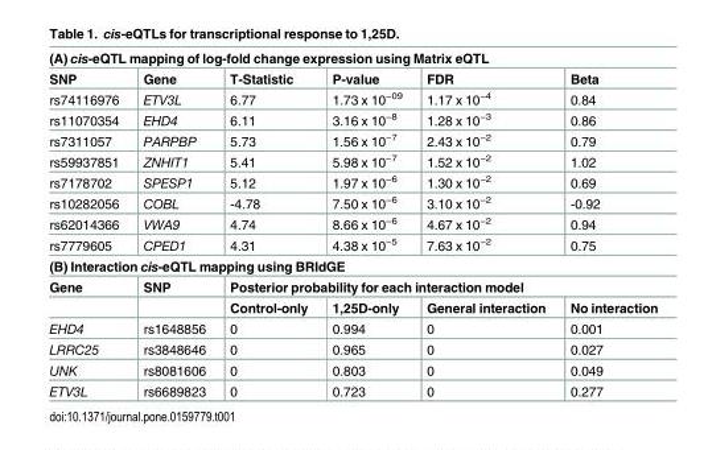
<table><tbody><tr><td colspan="6">(A) cis-eQTL mapping of log-fold change expression using Matrix eQTL</td></tr><tr><td>SNP</td><td>Gene</td><td>T-Statistic</td><td>P-value</td><td>FDR</td><td>Beta</td></tr><tr><td>rs74116976</td><td>ETV3L</td><td>6.77</td><td>1.73 x 10<sup>−09</sup></td><td>1.17 x 10<sup>−4</sup></td><td>0.84</td></tr><tr><td>rs11070354</td><td>EHD4</td><td>6.11</td><td>3.16 x 10<sup>−8</sup></td><td>1.28 x 10<sup>−3</sup></td><td>0.86</td></tr><tr><td>rs7311057</td><td>PARPBP</td><td>5.73</td><td>1.56 x 10<sup>−7</sup></td><td>2.43 x 10<sup>−2</sup></td><td>0.79</td></tr><tr><td>rs59937851</td><td>ZNHIT1</td><td>5.41</td><td>5.98 x 10<sup>−7</sup></td><td>1.52 x 10<sup>−2</sup></td><td>1.02</td></tr><tr><td>rs7178702</td><td>SPESP1</td><td>5.12</td><td>1.97 x 10<sup>−6</sup></td><td>1.30 x 10<sup>−2</sup></td><td>0.69</td></tr><tr><td>rs10282056</td><td>COBL</td><td>-4.78</td><td>7.50 x 10<sup>−6</sup></td><td>3.10 x 10<sup>−2</sup></td><td>-0.92</td></tr><tr><td>rs62014366</td><td>VWA9</td><td>4.74</td><td>8.66 x 10<sup>−6</sup></td><td>4.67 x 10<sup>−2</sup></td><td>0.94</td></tr><tr><td>rs7779605</td><td>CPED1</td><td>4.31</td><td>4.38 x 10<sup>−5</sup></td><td>7.63 x 10<sup>−2</sup></td><td>0.75</td></tr><tr><td colspan="6">(B) Interaction cis-eQTL mapping using BRIdGE</td></tr><tr><td rowspan="2">Gene</td><td>SNP</td><td colspan="4">Posterior probability for each interaction model</td></tr><tr><td></td><td>Control-only</td><td>1,25D-only</td><td>General interaction</td><td>No interaction</td></tr><tr><td>EHD4</td><td>rs1648856</td><td>0</td><td>0.994</td><td>0</td><td>0.001</td></tr><tr><td>LRRC25</td><td>rs3848646</td><td>0</td><td>0.965</td><td>0</td><td>0.027</td></tr><tr><td>UNK</td><td>rs8081606</td><td>0</td><td>0.803</td><td>0</td><td>0.049</td></tr><tr><td>ETV3L</td><td>rs6689823</td><td>0</td><td>0.723</td><td>0</td><td>0.277</td></tr></tbody></table>